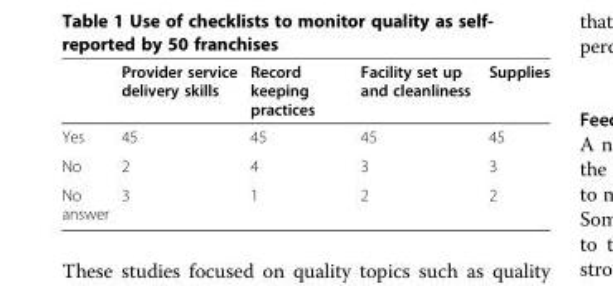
<table><thead><tr><td></td><td>Provider service delivery skills</td><td>Record keeping practices</td><td>Facility set up and cleanliness</td><td>Supplies</td></tr></thead><tbody><tr><td>Yes</td><td>45</td><td>45</td><td>45</td><td>45</td></tr><tr><td>No</td><td>2</td><td>4</td><td>3</td><td>3</td></tr><tr><td>No answer</td><td>3</td><td>1</td><td>2</td><td>2</td></tr></tbody></table>